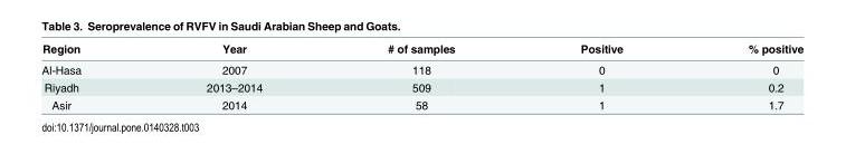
<table><thead><tr><td>Region</td><td>Year</td><td># of samples</td><td>Positive</td><td>% positive</td></tr></thead><tbody><tr><td>Al-Hasa</td><td>2007</td><td>118</td><td>0</td><td>0</td></tr><tr><td>Riyadh</td><td>2013–2014</td><td>509</td><td>1</td><td>0.2</td></tr><tr><td>Asir</td><td>2014</td><td>58</td><td>1</td><td>1.7</td></tr></tbody></table>